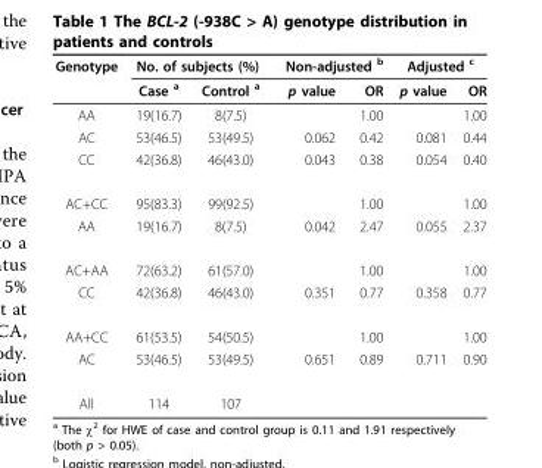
<table><thead><tr><td rowspan="2">Genotype</td><td colspan="2">No. of subjects (%)</td><td colspan="2">Non-adjusted <sup>b</sup></td><td colspan="2">Adjusted <sup>c</sup></td></tr><tr><td>Case <sup>a</sup></td><td>Control <sup>a</sup></td><td>p value</td><td>OR</td><td>p value</td><td>OR</td></tr></thead><tbody><tr><td>AA</td><td>19(16.7)</td><td>8(7.5)</td><td></td><td>1.00</td><td></td><td>1.00</td></tr><tr><td>AC</td><td>53(46.5)</td><td>53(49.5)</td><td>0.062</td><td>0.42</td><td>0.081</td><td>0.44</td></tr><tr><td>CC</td><td>42(36.8)</td><td>46(43.0)</td><td>0.043</td><td>0.38</td><td>0.054</td><td>0.40</td></tr><tr><td>AC+CC</td><td>95(83.3)</td><td>99(92.5)</td><td></td><td>1.00</td><td></td><td>1.00</td></tr><tr><td>AA</td><td>19(16.7)</td><td>8(7.5)</td><td>0.042</td><td>2.47</td><td>0.055</td><td>2.37</td></tr><tr><td>AC+AA</td><td>72(63.2)</td><td>61(57.0)</td><td></td><td>1.00</td><td></td><td>1.00</td></tr><tr><td>CC</td><td>42(36.8)</td><td>46(43.0)</td><td>0.351</td><td>0.77</td><td>0.358</td><td>0.77</td></tr><tr><td>AA+CC</td><td>61(53.5)</td><td>54(50.5)</td><td></td><td>1.00</td><td></td><td>1.00</td></tr><tr><td>AC</td><td>53(46.5)</td><td>53(49.5)</td><td>0.651</td><td>0.89</td><td>0.711</td><td>0.90</td></tr><tr><td>All</td><td>114</td><td>107</td><td></td><td></td><td></td><td></td></tr></tbody></table>